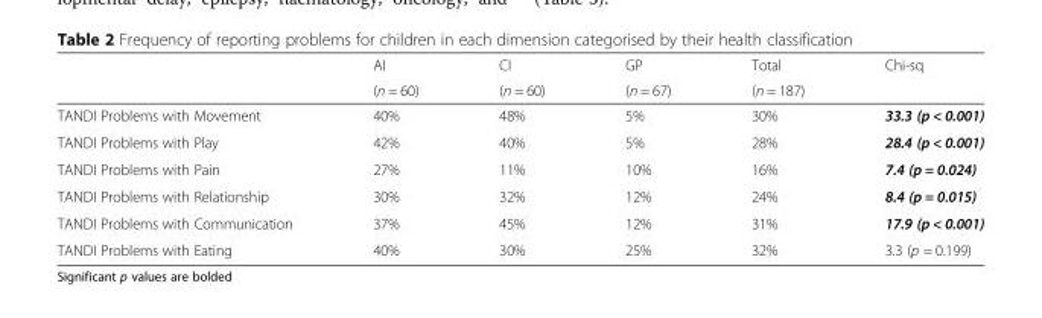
<table><thead><tr><td rowspan="2"></td><td rowspan="2">AI (n = 60)</td><td rowspan="2">CI (n = 60)</td><td rowspan="2">GP (n = 67)</td><td rowspan="2">Total (n = 187)</td><td rowspan="2">Chi-sq</td></tr><tr></tr></thead><tbody><tr><td>TANDI Problems with Movement</td><td>40%</td><td>48%</td><td>5%</td><td>30%</td><td>33.3 (p &lt; 0.001)</td></tr><tr><td>TANDI Problems with Play</td><td>42%</td><td>40%</td><td>5%</td><td>28%</td><td>28.4 (p &lt; 0.001)</td></tr><tr><td>TANDI Problems with Pain</td><td>27%</td><td>11%</td><td>10%</td><td>16%</td><td>7.4 (p = 0.024)</td></tr><tr><td>TANDI Problems with Relationship</td><td>30%</td><td>32%</td><td>12%</td><td>24%</td><td>8.4 (p = 0.015)</td></tr><tr><td>TANDI Problems with Communication</td><td>37%</td><td>45%</td><td>12%</td><td>31%</td><td>17.9 (p &lt; 0.001)</td></tr><tr><td>TANDI Problems with Eating</td><td>40%</td><td>30%</td><td>25%</td><td>32%</td><td>3.3 (p = 0.199)</td></tr></tbody></table>